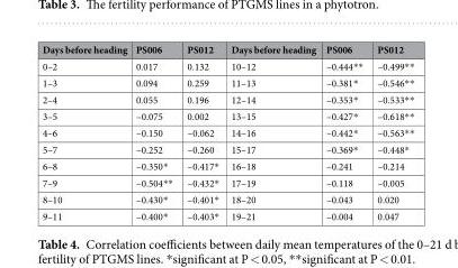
<table><thead><tr><td>Days before heading</td><td>PS006</td><td>PS012</td><td>Days before heading</td><td>PS006</td><td>PS012</td></tr></thead><tbody><tr><td>0–2</td><td>0.017</td><td>0.132</td><td>10–12</td><td>–0.444**</td><td>–0.499**</td></tr><tr><td>1–3</td><td>0.094</td><td>0.259</td><td>11–13</td><td>–0.381*</td><td>–0.546**</td></tr><tr><td>2–4</td><td>0.055</td><td>0.196</td><td>12–14</td><td>–0.353*</td><td>–0.533**</td></tr><tr><td>3–5</td><td>–0.075</td><td>0.002</td><td>13–15</td><td>–0.427*</td><td>–0.618**</td></tr><tr><td>4–6</td><td>–0.150</td><td>–0.062</td><td>14–16</td><td>–0.442*</td><td>–0.563**</td></tr><tr><td>5–7</td><td>–0.252</td><td>–0.260</td><td>15–17</td><td>–0.369*</td><td>–0.448*</td></tr><tr><td>6–8</td><td>–0.350*</td><td>–0.417*</td><td>16–18</td><td>–0.241</td><td>–0.214</td></tr><tr><td>7–9</td><td>–0.504**</td><td>–0.432*</td><td>17–19</td><td>–0.118</td><td>–0.005</td></tr><tr><td>8–10</td><td>–0.430*</td><td>–0.401*</td><td>18–20</td><td>–0.043</td><td>0.020</td></tr><tr><td>9–11</td><td>–0.400*</td><td>–0.403*</td><td>19–21</td><td>–0.004</td><td>0.047</td></tr></tbody></table>